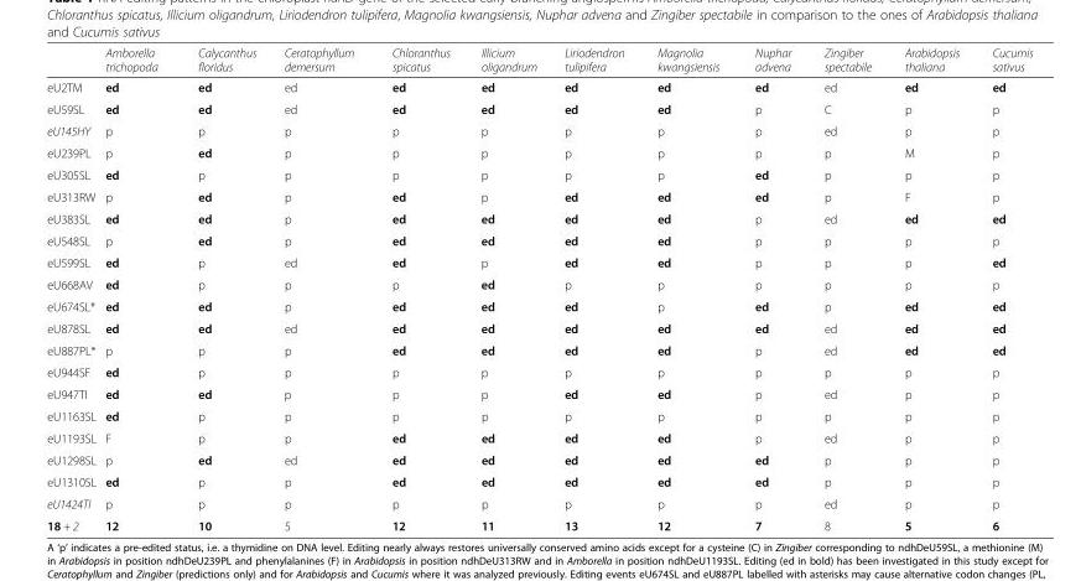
<table><thead><tr><td></td><td>Amborella trichopoda</td><td>Calycanthus floridus</td><td>Ceratophyllum demersum</td><td>Chloranthus spicatus</td><td>Illicium oligandrum</td><td>Liriodendron tulipifera</td><td>Magnolia kwangsiensis</td><td>Nuphar advena</td><td>Zingiber spectabile</td><td>Arabidopsis thaliana</td><td>Cucumis sativus</td></tr></thead><tbody><tr><td>eU2TM</td><td>ed</td><td>ed</td><td>ed</td><td>ed</td><td>ed</td><td>ed</td><td>ed</td><td>ed</td><td>ed</td><td>ed</td><td>ed</td></tr><tr><td>eU59SL</td><td>ed</td><td>ed</td><td>ed</td><td>ed</td><td>ed</td><td>ed</td><td>ed</td><td>p</td><td>C</td><td>p</td><td>p</td></tr><tr><td>eU145HY</td><td>p</td><td>p</td><td>p</td><td>p</td><td>p</td><td>p</td><td>p</td><td>p</td><td>ed</td><td>p</td><td>p</td></tr><tr><td>eU239PL</td><td>p</td><td>ed</td><td>p</td><td>p</td><td>p</td><td>p</td><td>p</td><td>p</td><td>p</td><td>M</td><td>p</td></tr><tr><td>eU305SL</td><td>ed</td><td>p</td><td>p</td><td>p</td><td>p</td><td>p</td><td>p</td><td>ed</td><td>p</td><td>p</td><td>p</td></tr><tr><td>eU313RW</td><td>p</td><td>ed</td><td>p</td><td>ed</td><td>p</td><td>ed</td><td>ed</td><td>ed</td><td>p</td><td>F</td><td>p</td></tr><tr><td>eU383SL</td><td>ed</td><td>ed</td><td>p</td><td>ed</td><td>ed</td><td>ed</td><td>ed</td><td>p</td><td>ed</td><td>ed</td><td>ed</td></tr><tr><td>eU548SL</td><td>p</td><td>ed</td><td>p</td><td>ed</td><td>ed</td><td>ed</td><td>ed</td><td>p</td><td>p</td><td>p</td><td>p</td></tr><tr><td>eU599SL</td><td>ed</td><td>p</td><td>ed</td><td>ed</td><td>p</td><td>ed</td><td>ed</td><td>p</td><td>p</td><td>p</td><td>ed</td></tr><tr><td>eU668AV</td><td>ed</td><td>p</td><td>p</td><td>p</td><td>ed</td><td>p</td><td>p</td><td>p</td><td>p</td><td>p</td><td>p</td></tr><tr><td>eU674SL*</td><td>ed</td><td>ed</td><td>p</td><td>ed</td><td>ed</td><td>ed</td><td>p</td><td>ed</td><td>p</td><td>ed</td><td>ed</td></tr><tr><td>eU878SL</td><td>ed</td><td>ed</td><td>ed</td><td>ed</td><td>ed</td><td>ed</td><td>ed</td><td>ed</td><td>ed</td><td>ed</td><td>ed</td></tr><tr><td>eU887PL*</td><td>p</td><td>p</td><td>p</td><td>ed</td><td>ed</td><td>ed</td><td>ed</td><td>p</td><td>ed</td><td>ed</td><td>ed</td></tr><tr><td>eU944SF</td><td>ed</td><td>p</td><td>p</td><td>p</td><td>p</td><td>p</td><td>p</td><td>p</td><td>p</td><td>p</td><td>p</td></tr><tr><td>eU947TI</td><td>ed</td><td>ed</td><td>p</td><td>p</td><td>p</td><td>ed</td><td>ed</td><td>p</td><td>ed</td><td>p</td><td>p</td></tr><tr><td>eU1163SL</td><td>ed</td><td>p</td><td>p</td><td>p</td><td>p</td><td>p</td><td>p</td><td>p</td><td>p</td><td>p</td><td>p</td></tr><tr><td>eU1193SL</td><td>F</td><td>p</td><td>p</td><td>ed</td><td>ed</td><td>ed</td><td>ed</td><td>p</td><td>ed</td><td>p</td><td>p</td></tr><tr><td>eU1298SL</td><td>p</td><td>ed</td><td>ed</td><td>ed</td><td>ed</td><td>ed</td><td>ed</td><td>ed</td><td>p</td><td>p</td><td>p</td></tr><tr><td>eU1310SL</td><td>ed</td><td>p</td><td>p</td><td>ed</td><td>ed</td><td>ed</td><td>ed</td><td>ed</td><td>p</td><td>p</td><td>p</td></tr><tr><td>eU1424TI</td><td>p</td><td>p</td><td>p</td><td>p</td><td>p</td><td>p</td><td>p</td><td>p</td><td>ed</td><td>p</td><td>p</td></tr><tr><td>18 + 2</td><td>12</td><td>10</td><td>5</td><td>12</td><td>11</td><td>13</td><td>12</td><td>7</td><td>8</td><td>5</td><td>6</td></tr></tbody></table>